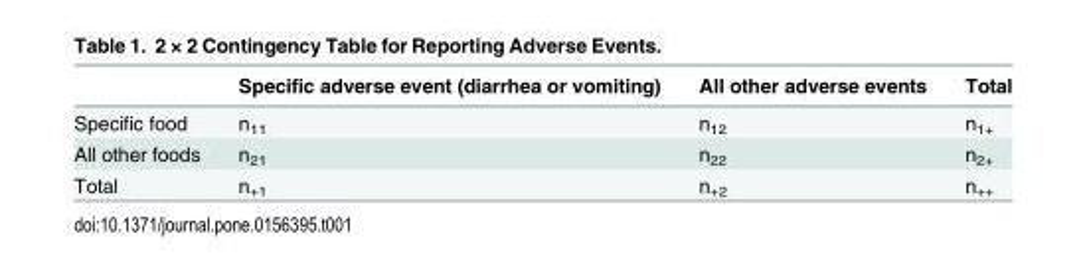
<table><thead><tr><td></td><td>Specific adverse event (diarrhea or vomiting)</td><td>All other adverse events</td><td>Total</td></tr></thead><tbody><tr><td>Specific food</td><td>n<sub>11</sub></td><td>n<sub>12</sub></td><td>n<sub>1+</sub></td></tr><tr><td>All other foods</td><td>n<sub>21</sub></td><td>n<sub>22</sub></td><td>n<sub>2+</sub></td></tr><tr><td>Total</td><td>n<sub>+1</sub></td><td>n<sub>+2</sub></td><td>n<sub>++</sub></td></tr></tbody></table>